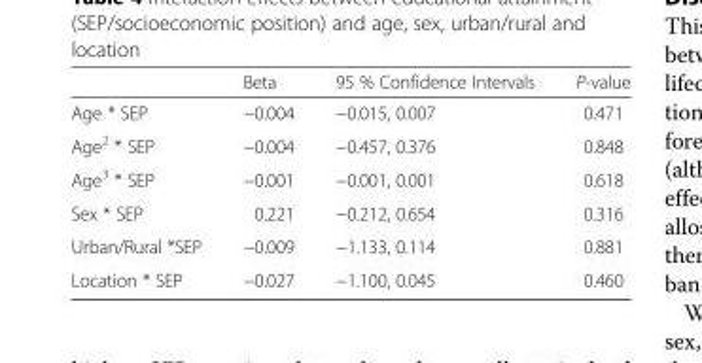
<table><thead><tr><td></td><td>Beta</td><td>95 % Confidence Intervals</td><td>P-value</td></tr></thead><tbody><tr><td>Age * SEP</td><td>−0.004</td><td>−0.015, 0.007</td><td>0.471</td></tr><tr><td>Age<sup>2</sup> * SEP</td><td>−0.004</td><td>−0.457, 0.376</td><td>0.848</td></tr><tr><td>Age<sup>3</sup> * SEP</td><td>−0.001</td><td>−0.001, 0.001</td><td>0.618</td></tr><tr><td>Sex * SEP</td><td>0.221</td><td>−0.212, 0.654</td><td>0.316</td></tr><tr><td>Urban/Rural *SEP</td><td>−0.009</td><td>−1.133, 0.114</td><td>0.881</td></tr><tr><td>Location * SEP</td><td>−0.027</td><td>−1.100, 0.045</td><td>0.460</td></tr></tbody></table>